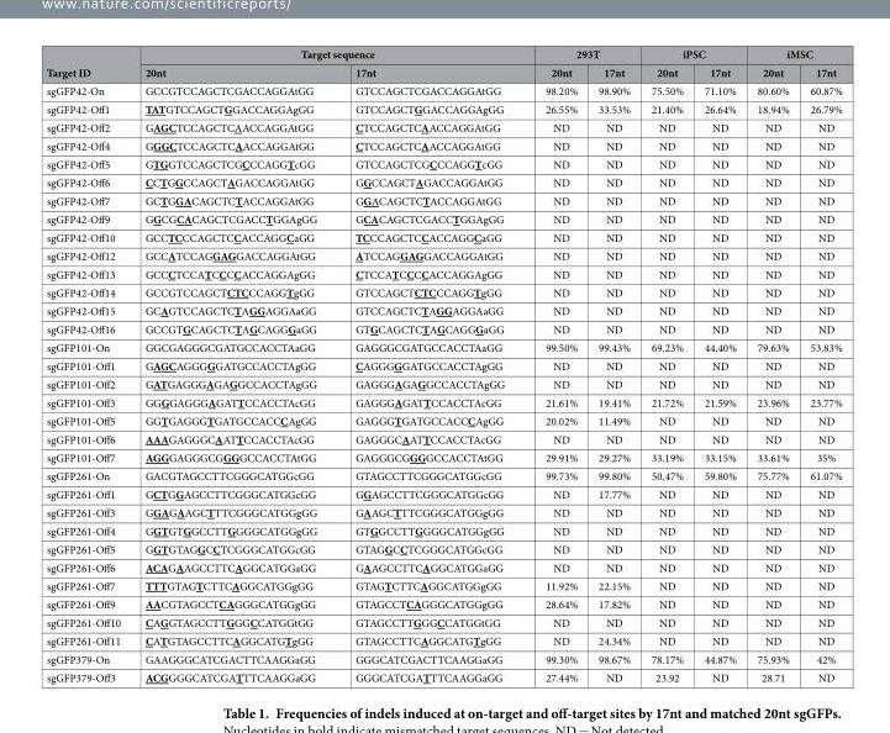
<table><thead><tr><td rowspan="2">Target ID</td><td colspan="2">Target sequence</td><td colspan="2">293T</td><td colspan="2">iPSC</td><td colspan="2">iMSC</td></tr><tr><td>20nt</td><td>17nt</td><td>20nt</td><td>17nt</td><td>20nt</td><td>17nt</td><td>20nt</td><td>17nt</td></tr></thead><tbody><tr><td>sgGFP42-On</td><td>GCCGTCCAGCTCGACCAGGAtGG</td><td>GTCCAGCTCGACCAGGAtGG</td><td>98.20%</td><td>98.90%</td><td>75.50%</td><td>71.10%</td><td>80.60%</td><td>60.87%</td></tr><tr><td>sgGFP42-Off1</td><td>TATGTCCAGCTGGACCAGGAgGG</td><td>GTCCAGCTGGACCAGGAgGG</td><td>26.55%</td><td>33.53%</td><td>21.40%</td><td>26.64%</td><td>18.94%</td><td>26.79%</td></tr><tr><td>sgGFP42-Off2</td><td>GAGCTCCAGCTCAACCAGGAtGG</td><td>CTCCAGCTCAACCAGGAtGG</td><td>ND</td><td>ND</td><td>ND</td><td>ND</td><td>ND</td><td>ND</td></tr><tr><td>sgGFP42-Off4</td><td>GGGCTCCAGCTCAACCAGGAtGG</td><td>CTCCAGCTCAACCAGGAtGG</td><td>ND</td><td>ND</td><td>ND</td><td>ND</td><td>ND</td><td>ND</td></tr><tr><td>sgGFP42-Off5</td><td>GTGGTCCAGCTCGCCCAGGTcGG</td><td>GTCCAGCTCGCCCAGGTcGG</td><td>ND</td><td>ND</td><td>ND</td><td>ND</td><td>ND</td><td>ND</td></tr><tr><td>sgGFP42-Off6</td><td>CCTGGCCAGCTAGACCAGGAtGG</td><td>GGCCAGCTAGACCAGGAtGG</td><td>ND</td><td>ND</td><td>ND</td><td>ND</td><td>ND</td><td>ND</td></tr><tr><td>sgGFP42-Off7</td><td>GCTGGACAGCTCTACCAGGAtGG</td><td>GGACAGCTCTACCAGGAtGG</td><td>ND</td><td>ND</td><td>ND</td><td>ND</td><td>ND</td><td>ND</td></tr><tr><td>sgGFP42-Off9</td><td>GGCGCACAGCTCGACCTGGAgGG</td><td>GCACAGCTCGACCTGGAgGG</td><td>ND</td><td>ND</td><td>ND</td><td>ND</td><td>ND</td><td>ND</td></tr><tr><td>sgGFP42-Off10</td><td>GCCTCCCAGCTCCACCAGGCaGG</td><td>TCCCAGCTCCACCAGGCaGG</td><td>ND</td><td>ND</td><td>ND</td><td>ND</td><td>ND</td><td>ND</td></tr><tr><td>sgGFP42-Off12</td><td>GCCATCCAGGAGGACCAGGAtGG</td><td>ATCCAGGAGGACCAGGAtGG</td><td>ND</td><td>ND</td><td>ND</td><td>ND</td><td>ND</td><td>ND</td></tr><tr><td>sgGFP42-Off13</td><td>GCCCTCCATCCCCACCAGGAgGG</td><td>CTCCATCCCCACCAGGAgGG</td><td>ND</td><td>ND</td><td>ND</td><td>ND</td><td>ND</td><td>ND</td></tr><tr><td>sgGFP42-Off14</td><td>GCCGTCCAGCTCTCCCAGGTgGG</td><td>GTCCAGCTCTCCCAGGTgGG</td><td>ND</td><td>ND</td><td>ND</td><td>ND</td><td>ND</td><td>ND</td></tr><tr><td>sgGFP42-Off15</td><td>GCAGTCCAGCTCTAGGAGGAaGG</td><td>GTCCAGCTCTAGGAGGAaGG</td><td>ND</td><td>ND</td><td>ND</td><td>ND</td><td>ND</td><td>ND</td></tr><tr><td>sgGFP42-Off16</td><td>GCCGTGCAGCTCTAGCAGGGaGG</td><td>GTGCAGCTCTAGCAGGGaGG</td><td>ND</td><td>ND</td><td>ND</td><td>ND</td><td>ND</td><td>ND</td></tr><tr><td>sgGFP101-On</td><td>GGCGAGGGCGATGCCACCTAaGG</td><td>GAGGGCGATGCCACCTAaGG</td><td>99.50%</td><td>99.43%</td><td>69.23%</td><td>44.40%</td><td>79.63%</td><td>53.83%</td></tr><tr><td>sgGFP101-Off1</td><td>GAGCAGGGGGATGCCACCTAgGG</td><td>CAGGGGGATGCCACCTAgGG</td><td>ND</td><td>ND</td><td>ND</td><td>ND</td><td>ND</td><td>ND</td></tr><tr><td>sgGFP101-Off2</td><td>GATGAGGGAGAGGCCACCTAgGG</td><td>GAGGGAGAGGCCACCTAgGG</td><td>ND</td><td>ND</td><td>ND</td><td>ND</td><td>ND</td><td>ND</td></tr><tr><td>sgGFP101-Off3</td><td>GGGGAGGGAGATTCCACCTAcGG</td><td>GAGGGAGATTCCACCTAcGG</td><td>21.61%</td><td>19.41%</td><td>21.72%</td><td>21.59%</td><td>23.96%</td><td>23.77%</td></tr><tr><td>sgGFP101-Off5</td><td>GGTGAGGGTGATGCCACCCAgGG</td><td>GAGGGTGATGCCACCCAgGG</td><td>20.02%</td><td>11.49%</td><td>ND</td><td>ND</td><td>ND</td><td>ND</td></tr><tr><td>sgGFP101-Off6</td><td>AAAGAGGGCAATTCCACCTAcGG</td><td>GAGGGCAATTCCACCTAcGG</td><td>ND</td><td>ND</td><td>ND</td><td>ND</td><td>ND</td><td>ND</td></tr><tr><td>sgGFP101-Off7</td><td>AGGGAGGGCGGGGCCACCTAtGG</td><td>GAGGGCGGGGCCACCTAtGG</td><td>29.91%</td><td>29.27%</td><td>33.19%</td><td>33.15%</td><td>33.61%</td><td>35%</td></tr><tr><td>sgGFP261-On</td><td>GACGTAGCCTTCGGGCATGGcGG</td><td>GTAGCCTTCGGGCATGGcGG</td><td>99.73%</td><td>99.80%</td><td>50.47%</td><td>59.80%</td><td>75.77%</td><td>61.07%</td></tr><tr><td>sgGFP261-Off1</td><td>GCTGGAGCCTTCGGGCATGGcGG</td><td>GGAGCCTTCGGGCATGGcGG</td><td>ND</td><td>17.77%</td><td>ND</td><td>ND</td><td>ND</td><td>ND</td></tr><tr><td>sgGFP261-Off3</td><td>GGAGAAGCTTTCGGGCATGGgGG</td><td>GAAGCTTTCGGGCATGGgGG</td><td>ND</td><td>ND</td><td>ND</td><td>ND</td><td>ND</td><td>ND</td></tr><tr><td>sgGFP261-Off4</td><td>GGTGTGGCCTTGGGGCATGGgGG</td><td>GTGGCCTTGGGGCATGGgGG</td><td>ND</td><td>ND</td><td>ND</td><td>ND</td><td>ND</td><td>ND</td></tr><tr><td>sgGFP261-Off5</td><td>GGTGTAGGCCTCGGGCATGGcGG</td><td>GTAGGCCTCGGGCATGGcGG</td><td>ND</td><td>ND</td><td>ND</td><td>ND</td><td>ND</td><td>ND</td></tr><tr><td>sgGFP261-Off6</td><td>ACAGAAGCCTTCAGGCATGGaGG</td><td>GAAGCCTTCAGGCATGGaGG</td><td>ND</td><td>ND</td><td>ND</td><td>ND</td><td>ND</td><td>ND</td></tr><tr><td>sgGFP261-Off7</td><td>TTTGTAGTCTTCAGGCATGGgGG</td><td>GTAGTCTTCAGGCATGGgGG</td><td>11.92%</td><td>22.15%</td><td>ND</td><td>ND</td><td>ND</td><td>ND</td></tr><tr><td>sgGFP261-Off9</td><td>AACGTAGCCTCAGGGCATGGgGG</td><td>GTAGCCTCAGGGCATGGgGG</td><td>28.64%</td><td>17.82%</td><td>ND</td><td>ND</td><td>ND</td><td>ND</td></tr><tr><td>sgGFP261-Off10</td><td>CAGGTAGCCTTGGGCCATGGtGG</td><td>GTAGCCTTGGGCCATGGtGG</td><td>ND</td><td>ND</td><td>ND</td><td>ND</td><td>ND</td><td>ND</td></tr><tr><td>sgGFP261-Off11</td><td>CATGTAGCCTTCAGGCATGTgGG</td><td>GTAGCCTTCAGGCATGTgGG</td><td>ND</td><td>24.34%</td><td>ND</td><td>ND</td><td>ND</td><td>ND</td></tr><tr><td>sgGFP379-On</td><td>GAAGGGCATCGACTTCAAGGaGG</td><td>GGGCATCGACTTCAAGGaGG</td><td>99.30%</td><td>98.67%</td><td>78.17%</td><td>44.87%</td><td>75.93%</td><td>42%</td></tr><tr><td>sgGFP379-Off3</td><td>ACGGGGCATCGATTTCAAGGaGG</td><td>GGGCATCGATTTCAAGGaGG</td><td>27.44%</td><td>ND</td><td>23.92</td><td>ND</td><td>28.71</td><td>ND</td></tr></tbody></table>